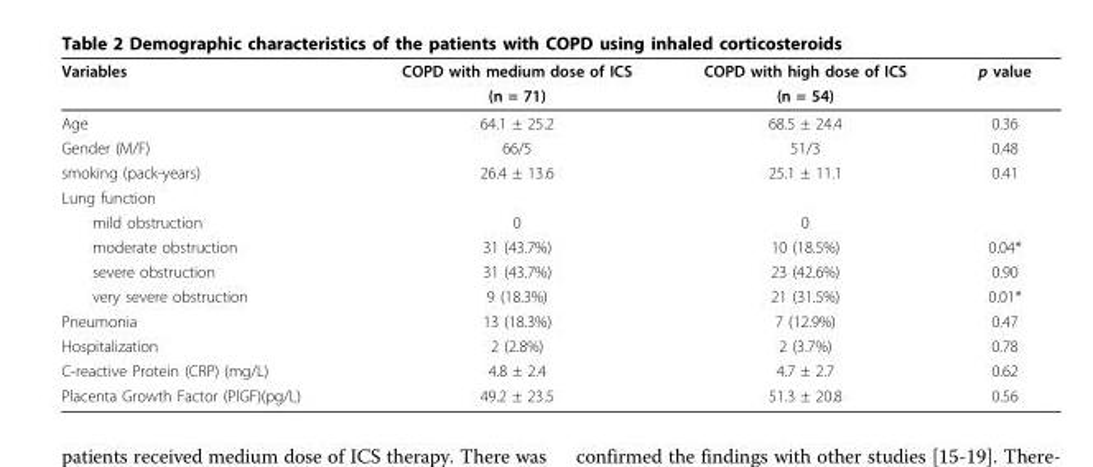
<table><thead><tr><td rowspan="2">Variables</td><td rowspan="2">COPD with medium dose of ICS (n = 71)</td><td rowspan="2">COPD with high dose of ICS (n = 54)</td><td rowspan="2">p value</td></tr><tr></tr></thead><tbody><tr><td>Age</td><td>64.1 ± 25.2</td><td>68.5 ± 24.4</td><td>0.36</td></tr><tr><td>Gender (M/F)</td><td>66/5</td><td>51/3</td><td>0.48</td></tr><tr><td>smoking (pack-years)</td><td>26.4 ± 13.6</td><td>25.1 ± 11.1</td><td>0.41</td></tr><tr><td colspan="4">Lung function</td></tr><tr><td>mild obstruction</td><td>0</td><td>0</td><td></td></tr><tr><td>moderate obstruction</td><td>31 (43.7%)</td><td>10 (18.5%)</td><td>0.04*</td></tr><tr><td>severe obstruction</td><td>31 (43.7%)</td><td>23 (42.6%)</td><td>0.90</td></tr><tr><td>very severe obstruction</td><td>9 (18.3%)</td><td>21 (31.5%)</td><td>0.01*</td></tr><tr><td>Pneumonia</td><td>13 (18.3%)</td><td>7 (12.9%)</td><td>0.47</td></tr><tr><td>Hospitalization</td><td>2 (2.8%)</td><td>2 (3.7%)</td><td>0.78</td></tr><tr><td>C-reactive Protein (CRP) (mg/L)</td><td>4.8 ± 2.4</td><td>4.7 ± 2.7</td><td>0.62</td></tr><tr><td>Placenta Growth Factor (PlGF)(pg/L)</td><td>49.2 ± 23.5</td><td>51.3 ± 20.8</td><td>0.56</td></tr></tbody></table>